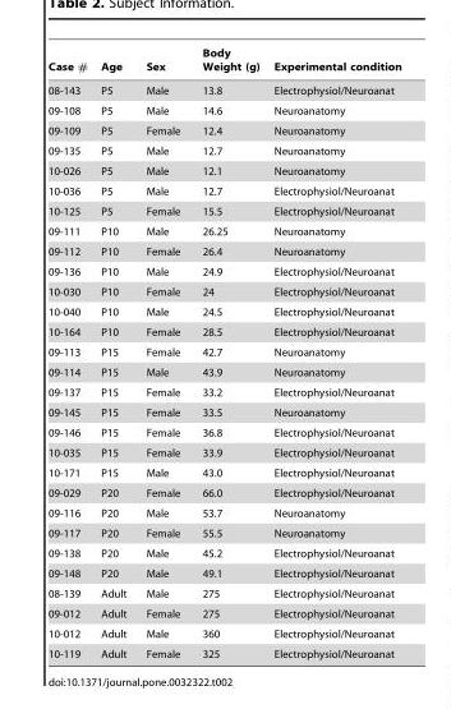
<table><thead><tr><td>Case #</td><td>Age</td><td>Sex</td><td>Body Weight (g)</td><td>Experimental condition</td></tr></thead><tbody><tr><td>08-143</td><td>P5</td><td>Male</td><td>13.8</td><td>Electrophysiol/Neuroanat</td></tr><tr><td>09-108</td><td>P5</td><td>Male</td><td>14.6</td><td>Neuroanatomy</td></tr><tr><td>09-109</td><td>P5</td><td>Female</td><td>12.4</td><td>Neuroanatomy</td></tr><tr><td>09-135</td><td>P5</td><td>Male</td><td>12.7</td><td>Neuroanatomy</td></tr><tr><td>10-026</td><td>P5</td><td>Male</td><td>12.1</td><td>Neuroanatomy</td></tr><tr><td>10-036</td><td>P5</td><td>Male</td><td>12.7</td><td>Electrophysiol/Neuroanat</td></tr><tr><td>10-125</td><td>P5</td><td>Female</td><td>15.5</td><td>Electrophysiol/Neuroanat</td></tr><tr><td>09-111</td><td>P10</td><td>Male</td><td>26.25</td><td>Neuroanatomy</td></tr><tr><td>09-112</td><td>P10</td><td>Female</td><td>26.4</td><td>Neuroanatomy</td></tr><tr><td>09-136</td><td>P10</td><td>Male</td><td>24.9</td><td>Electrophysiol/Neuroanat</td></tr><tr><td>10-030</td><td>P10</td><td>Female</td><td>24</td><td>Electrophysiol/Neuroanat</td></tr><tr><td>10-040</td><td>P10</td><td>Male</td><td>24.5</td><td>Electrophysiol/Neuroanat</td></tr><tr><td>10-164</td><td>P10</td><td>Female</td><td>28.5</td><td>Electrophysiol/Neuroanat</td></tr><tr><td>09-113</td><td>P15</td><td>Female</td><td>42.7</td><td>Neuroanatomy</td></tr><tr><td>09-114</td><td>P15</td><td>Male</td><td>43.9</td><td>Neuroanatomy</td></tr><tr><td>09-137</td><td>P15</td><td>Female</td><td>33.2</td><td>Electrophysiol/Neuroanat</td></tr><tr><td>09-145</td><td>P15</td><td>Female</td><td>33.5</td><td>Neuroanatomy</td></tr><tr><td>09-146</td><td>P15</td><td>Female</td><td>36.8</td><td>Electrophysiol/Neuroanat</td></tr><tr><td>10-035</td><td>P15</td><td>Female</td><td>33.9</td><td>Electrophysiol/Neuroanat</td></tr><tr><td>10-171</td><td>P15</td><td>Male</td><td>43.0</td><td>Electrophysiol/Neuroanat</td></tr><tr><td>09-029</td><td>P20</td><td>Female</td><td>66.0</td><td>Electrophysiol/Neuroanat</td></tr><tr><td>09-116</td><td>P20</td><td>Male</td><td>53.7</td><td>Neuroanatomy</td></tr><tr><td>09-117</td><td>P20</td><td>Female</td><td>55.5</td><td>Neuroanatomy</td></tr><tr><td>09-138</td><td>P20</td><td>Male</td><td>45.2</td><td>Electrophysiol/Neuroanat</td></tr><tr><td>09-148</td><td>P20</td><td>Male</td><td>49.1</td><td>Electrophysiol/Neuroanat</td></tr><tr><td>08-139</td><td>Adult</td><td>Male</td><td>275</td><td>Electrophysiol/Neuroanat</td></tr><tr><td>09-012</td><td>Adult</td><td>Female</td><td>275</td><td>Electrophysiol/Neuroanat</td></tr><tr><td>10-012</td><td>Adult</td><td>Male</td><td>360</td><td>Electrophysiol/Neuroanat</td></tr><tr><td>10-119</td><td>Adult</td><td>Female</td><td>325</td><td>Electrophysiol/Neuroanat</td></tr></tbody></table>